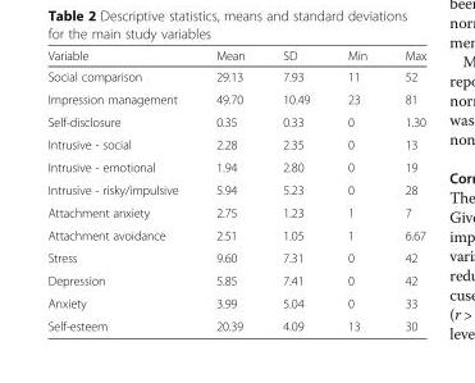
<table><thead><tr><td>Variable</td><td>Mean</td><td>SD</td><td>Min</td><td>Max</td></tr></thead><tbody><tr><td>Social comparison</td><td>29.13</td><td>7.93</td><td>11</td><td>52</td></tr><tr><td>Impression management</td><td>49.70</td><td>10.49</td><td>23</td><td>81</td></tr><tr><td>Self-disclosure</td><td>0.35</td><td>0.33</td><td>0</td><td>1.30</td></tr><tr><td>Intrusive - social</td><td>2.28</td><td>2.35</td><td>0</td><td>13</td></tr><tr><td>Intrusive - emotional</td><td>1.94</td><td>2.80</td><td>0</td><td>19</td></tr><tr><td>Intrusive - risky/impulsive</td><td>5.94</td><td>5.23</td><td>0</td><td>28</td></tr><tr><td>Attachment anxiety</td><td>2.75</td><td>1.23</td><td>1</td><td>7</td></tr><tr><td>Attachment avoidance</td><td>2.51</td><td>1.05</td><td>1</td><td>6.67</td></tr><tr><td>Stress</td><td>9.60</td><td>7.31</td><td>0</td><td>42</td></tr><tr><td>Depression</td><td>5.85</td><td>7.41</td><td>0</td><td>42</td></tr><tr><td>Anxiety</td><td>3.99</td><td>5.04</td><td>0</td><td>33</td></tr><tr><td>Self-esteem</td><td>20.39</td><td>4.09</td><td>13</td><td>30</td></tr></tbody></table>